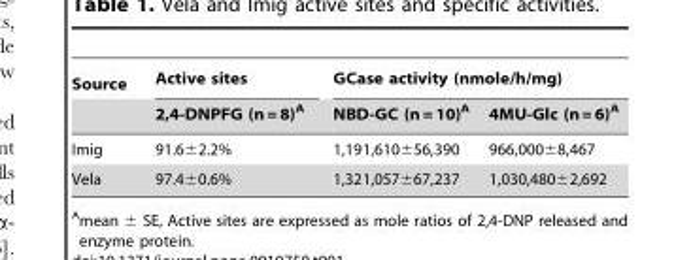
<table><thead><tr><td rowspan="2">Source</td><td rowspan="2">Active sites 2,4-DNPFG (n = 8)<sup>A</sup></td><td colspan="2">GCase activity (nmole/h/mg)</td></tr><tr><td>NBD-GC (n = 10)<sup>A</sup></td><td>4MU-Glc (n = 6)<sup>A</sup></td></tr></thead><tbody><tr><td>Imig</td><td>91.6±2.2%</td><td>1,191,610±56,390</td><td>966,000±8,467</td></tr><tr><td>Vela</td><td>97.4±0.6%</td><td>1,321,057±67,237</td><td>1,030,480±2,692</td></tr></tbody></table>